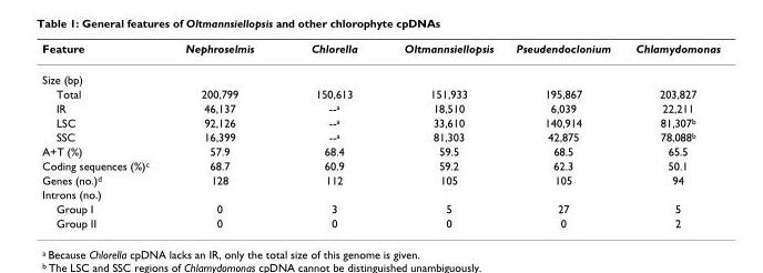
<table><thead><tr><td>Feature</td><td>Nephroselmis</td><td>Chlorella</td><td>Oltmannsiellopsis</td><td>Pseudendoclonium</td><td>Chlamydomonas</td></tr></thead><tbody><tr><td colspan="6">Size (bp)</td></tr><tr><td>Total</td><td>200,799</td><td>150,613</td><td>151,933</td><td>195,867</td><td>203,827</td></tr><tr><td>IR</td><td>46,137</td><td>--a</td><td>18,510</td><td>6,039</td><td>22,211</td></tr><tr><td>LSC</td><td>92,126</td><td>--a</td><td>33,610</td><td>140,914</td><td>81,307b</td></tr><tr><td>SSC</td><td>16,399</td><td>--a</td><td>81,303</td><td>42,875</td><td>78,088b</td></tr><tr><td>A+T (%)</td><td>57.9</td><td>68.4</td><td>59.5</td><td>68.5</td><td>65.5</td></tr><tr><td>Coding sequences (%)c</td><td>68.7</td><td>60.9</td><td>59.2</td><td>62.3</td><td>50.1</td></tr><tr><td>Genes (no.)d</td><td>128</td><td>112</td><td>105</td><td>105</td><td>94</td></tr><tr><td colspan="6">Introns (no.)</td></tr><tr><td>Group I</td><td>0</td><td>3</td><td>5</td><td>27</td><td>5</td></tr><tr><td>Group II</td><td>0</td><td>0</td><td>0</td><td>0</td><td>2</td></tr></tbody></table>